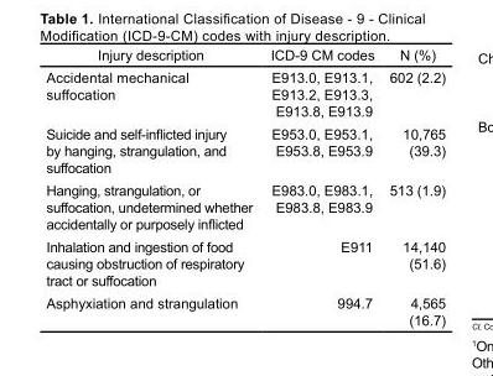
<table><thead><tr><td>Injury description</td><td>ICD-9 CM codes</td><td>N (%)</td></tr></thead><tbody><tr><td>Accidental mechanical suffocation</td><td>E913.0, E913.1, E913.2, E913.3, E913.8, E913.9</td><td>602 (2.2)</td></tr><tr><td>Suicide and self-inflicted injury by hanging, strangulation, and suffocation</td><td>E953.0, E953.1, E953.8, E953.9</td><td>10,765 (39.3)</td></tr><tr><td>Hanging, strangulation, or suffocation, undetermined whether accidentally or purposely inflicted</td><td>E983.0, E983.1, E983.8, E983.9</td><td>513 (1.9)</td></tr><tr><td>Inhalation and ingestion of food causing obstruction of respiratory tract or suffocation</td><td>E911</td><td>14,140 (51.6)</td></tr><tr><td>Asphyxiation and strangulation</td><td>994.7</td><td>4,565 (16.7)</td></tr></tbody></table>